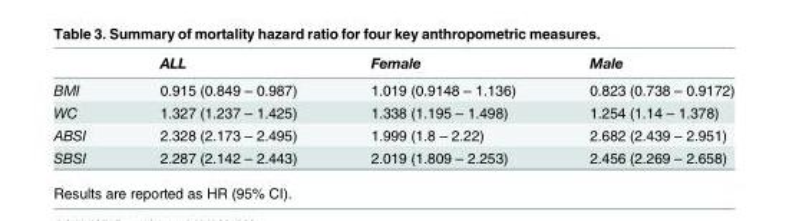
<table><thead><tr><td></td><td>ALL</td><td>Female</td><td>Male</td></tr></thead><tbody><tr><td>BMI</td><td>0.915 (0.849 – 0.987)</td><td>1.019 (0.9148 – 1.136)</td><td>0.823 (0.738 – 0.9172)</td></tr><tr><td>WC</td><td>1.327 (1.237 – 1.425)</td><td>1.338 (1.195 – 1.498)</td><td>1.254 (1.14 – 1.378)</td></tr><tr><td>ABSI</td><td>2.328 (2.173 – 2.495)</td><td>1.999 (1.8 – 2.22)</td><td>2.682 (2.439 – 2.951)</td></tr><tr><td>SBSI</td><td>2.287 (2.142 – 2.443)</td><td>2.019 (1.809 – 2.253)</td><td>2.456 (2.269 – 2.658)</td></tr></tbody></table>